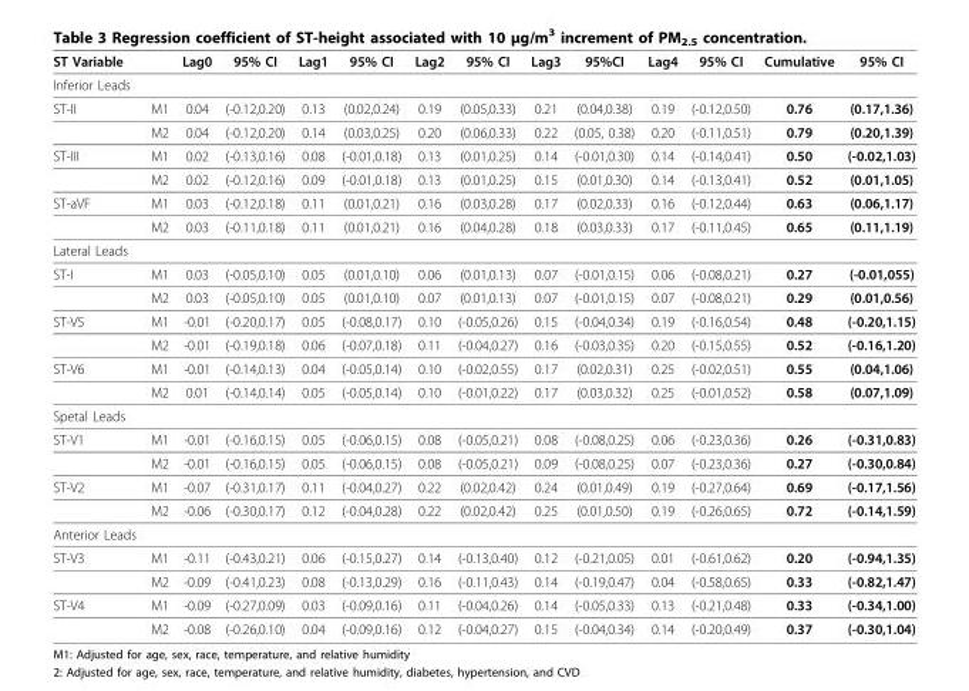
<table><thead><tr><td colspan="2">ST Variable</td><td rowspan="2">Lag0</td><td rowspan="2">95% CI</td><td rowspan="2">Lag1</td><td rowspan="2">95% CI</td><td rowspan="2">Lag2</td><td rowspan="2">95% CI</td><td rowspan="2">Lag3</td><td rowspan="2">95%CI</td><td rowspan="2">Lag4</td><td rowspan="2">95% CI</td><td rowspan="2">Cumulative</td><td rowspan="2">95% CI</td></tr><tr><td>Inferior Leads</td><td></td></tr></thead><tbody><tr><td rowspan="2">ST-II</td><td>M1</td><td>0.04</td><td>(-0.12,0.20)</td><td>0.13</td><td>(0.02,0.24)</td><td>0.19</td><td>(0.05,0.33)</td><td>0.21</td><td>(0.04,0.38)</td><td>0.19</td><td>(-0.12,0.50)</td><td>0.76</td><td>(0.17,1.36)</td></tr><tr><td>M2</td><td>0.04</td><td>(-0.12,0.20)</td><td>0.14</td><td>(0.03,0.25)</td><td>0.20</td><td>(0.06,0.33)</td><td>0.22</td><td>(0.05, 0.38)</td><td>0.20</td><td>(-0.11,0.51)</td><td>0.79</td><td>(0.20,1.39)</td></tr><tr><td rowspan="2">ST-III</td><td>M1</td><td>0.02</td><td>(-0.13,0.16)</td><td>0.08</td><td>(-0.01,0.18)</td><td>0.13</td><td>(0.01,0.25)</td><td>0.14</td><td>(-0.01,0.30)</td><td>0.14</td><td>(-0.14,0.41)</td><td>0.50</td><td>(-0.02,1.03)</td></tr><tr><td>M2</td><td>0.02</td><td>(-0.12,0.16)</td><td>0.09</td><td>(-0.01,0.18)</td><td>0.13</td><td>(0.01,0.25)</td><td>0.15</td><td>(0.01,0.30)</td><td>0.14</td><td>(-0.13,0.41)</td><td>0.52</td><td>(0.01,1.05)</td></tr><tr><td rowspan="2">ST-aVF</td><td>M1</td><td>0.03</td><td>(-0.12,0.18)</td><td>0.11</td><td>(0.01,0.21)</td><td>0.16</td><td>(0.03,0.28)</td><td>0.17</td><td>(0.02,0.33)</td><td>0.16</td><td>(-0.12,0.44)</td><td>0.63</td><td>(0.06,1.17)</td></tr><tr><td>M2</td><td>0.03</td><td>(-0.11,0.18)</td><td>0.11</td><td>(0.01,0.21)</td><td>0.16</td><td>(0.04,0.28)</td><td>0.18</td><td>(0.03,0.33)</td><td>0.17</td><td>(-0.11,0.45)</td><td>0.65</td><td>(0.11,1.19)</td></tr><tr><td colspan="14">Lateral Leads</td></tr><tr><td rowspan="2">ST-I</td><td>M1</td><td>0.03</td><td>(-0.05,0.10)</td><td>0.05</td><td>(0.01,0.10)</td><td>0.06</td><td>(0.01,0.13)</td><td>0.07</td><td>(-0.01,0.15)</td><td>0.06</td><td>(-0.08,0.21)</td><td>0.27</td><td>(-0.01,055)</td></tr><tr><td>M2</td><td>0.03</td><td>(-0.05,0.10)</td><td>0.05</td><td>(0.01,0.10)</td><td>0.07</td><td>(0.01,0.13)</td><td>0.07</td><td>(-0.01,0.15)</td><td>0.07</td><td>(-0.08,0.21)</td><td>0.29</td><td>(0.01,0.56)</td></tr><tr><td rowspan="2">ST-V5</td><td>M1</td><td>-0.01</td><td>(-0.20,0.17)</td><td>0.05</td><td>(-0.08,0.17)</td><td>0.10</td><td>(-0.05,0.26)</td><td>0.15</td><td>(-0.04,0.34)</td><td>0.19</td><td>(-0.16,0.54)</td><td>0.48</td><td>(-0.20,1.15)</td></tr><tr><td>M2</td><td>-0.01</td><td>(-0.19,0.18)</td><td>0.06</td><td>(-0.07,0.18)</td><td>0.11</td><td>(-0.04,0.27)</td><td>0.16</td><td>(-0.03,0.35)</td><td>0.20</td><td>(-0.15,0.55)</td><td>0.52</td><td>(-0.16,1.20)</td></tr><tr><td rowspan="2">ST-V6</td><td>M1</td><td>-0.01</td><td>(-0.14,0.13)</td><td>0.04</td><td>(-0.05,0.14)</td><td>0.10</td><td>(-0.02,0.55)</td><td>0.17</td><td>(0.02,0.31)</td><td>0.25</td><td>(-0.02,0.51)</td><td>0.55</td><td>(0.04,1.06)</td></tr><tr><td>M2</td><td>0.01</td><td>(-0.14,0.14)</td><td>0.05</td><td>(-0.05,0.14)</td><td>0.10</td><td>(-0.01,0.22)</td><td>0.17</td><td>(0.03,0.32)</td><td>0.25</td><td>(-0.01,0.52)</td><td>0.58</td><td>(0.07,1.09)</td></tr><tr><td colspan="14">Spetal Leads</td></tr><tr><td rowspan="2">ST-V1</td><td>M1</td><td>-0.01</td><td>(-0.16,0.15)</td><td>0.05</td><td>(-0.06,0.15)</td><td>0.08</td><td>(-0.05,0.21)</td><td>0.08</td><td>(-0.08,0.25)</td><td>0.06</td><td>(-0.23,0.36)</td><td>0.26</td><td>(-0.31,0.83)</td></tr><tr><td>M2</td><td>-0.01</td><td>(-0.16,0.15)</td><td>0.05</td><td>(-0.06,0.15)</td><td>0.08</td><td>(-0.05,0.21)</td><td>0.09</td><td>(-0.08,0.25)</td><td>0.07</td><td>(-0.23,0.36)</td><td>0.27</td><td>(-0.30,0.84)</td></tr><tr><td rowspan="2">ST-V2</td><td>M1</td><td>-0.07</td><td>(-0.31,0.17)</td><td>0.11</td><td>(-0.04,0.27)</td><td>0.22</td><td>(0.02,0.42)</td><td>0.24</td><td>(0.01,0.49)</td><td>0.19</td><td>(-0.27,0.64)</td><td>0.69</td><td>(-0.17,1.56)</td></tr><tr><td>M2</td><td>-0.06</td><td>(-0.30,0.17)</td><td>0.12</td><td>(-0.04,0.28)</td><td>0.22</td><td>(0.02,0.42)</td><td>0.25</td><td>(0.01,0.50)</td><td>0.19</td><td>(-0.26,0.65)</td><td>0.72</td><td>(-0.14,1.59)</td></tr><tr><td colspan="14">Anterior Leads</td></tr><tr><td rowspan="2">ST-V3</td><td>M1</td><td>-0.11</td><td>(-0.43,0.21)</td><td>0.06</td><td>(-0.15,0.27)</td><td>0.14</td><td>(-0.13,0.40)</td><td>0.12</td><td>(-0.21,0.05)</td><td>0.01</td><td>(-0.61,0.62)</td><td>0.20</td><td>(-0.94,1.35)</td></tr><tr><td>M2</td><td>-0.09</td><td>(-0.41,0.23)</td><td>0.08</td><td>(-0.13,0.29)</td><td>0.16</td><td>(-0.11,0.43)</td><td>0.14</td><td>(-0.19,0.47)</td><td>0.04</td><td>(-0.58,0.65)</td><td>0.33</td><td>(-0.82,1.47)</td></tr><tr><td rowspan="2">ST-V4</td><td>M1</td><td>-0.09</td><td>(-0.27,0.09)</td><td>0.03</td><td>(-0.09,0.16)</td><td>0.11</td><td>(-0.04,0.26)</td><td>0.14</td><td>(-0.05,0.33)</td><td>0.13</td><td>(-0.21,0.48)</td><td>0.33</td><td>(-0.34,1.00)</td></tr><tr><td>M2</td><td>-0.08</td><td>(-0.26,0.10)</td><td>0.04</td><td>(-0.09,0.16)</td><td>0.12</td><td>(-0.04,0.27)</td><td>0.15</td><td>(-0.04,0.34)</td><td>0.14</td><td>(-0.20,0.49)</td><td>0.37</td><td>(-0.30,1.04)</td></tr></tbody></table>